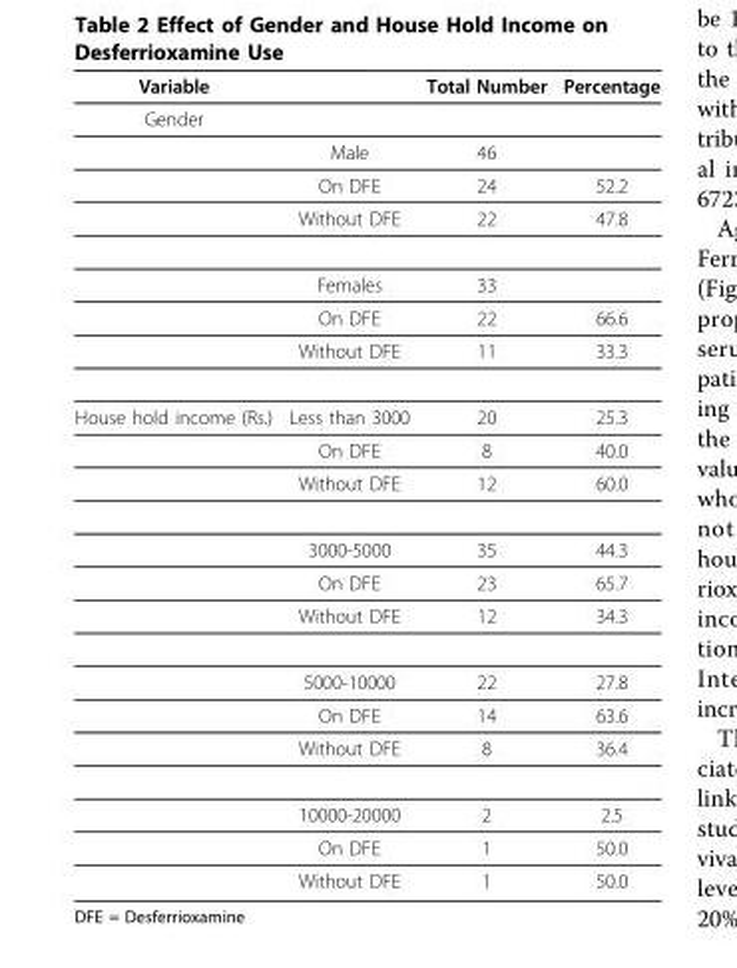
<table><thead><tr><td>Variable</td><td></td><td>Total Number</td><td>Percentage</td></tr></thead><tbody><tr><td colspan="4">Gender</td></tr><tr><td></td><td>Male</td><td>46</td><td></td></tr><tr><td></td><td>On DFE</td><td>24</td><td>52.2</td></tr><tr><td></td><td>Without DFE</td><td>22</td><td>47.8</td></tr><tr><td></td><td>Females</td><td>33</td><td></td></tr><tr><td></td><td>On DFE</td><td>22</td><td>66.6</td></tr><tr><td></td><td>Without DFE</td><td>11</td><td>33.3</td></tr><tr><td rowspan="12">House hold income (Rs.)</td><td>Less than 3000</td><td>20</td><td>25.3</td></tr><tr><td>On DFE</td><td>8</td><td>40.0</td></tr><tr><td>Without DFE</td><td>12</td><td>60.0</td></tr><tr><td>3000-5000</td><td>35</td><td>44.3</td></tr><tr><td>On DFE</td><td>23</td><td>65.7</td></tr><tr><td>Without DFE</td><td>12</td><td>34.3</td></tr><tr><td>5000-10000</td><td>22</td><td>27.8</td></tr><tr><td>On DFE</td><td>14</td><td>63.6</td></tr><tr><td>Without DFE</td><td>8</td><td>36.4</td></tr><tr><td>10000-20000</td><td>2</td><td>2.5</td></tr><tr><td>On DFE</td><td>1</td><td>50.0</td></tr><tr><td>Without DFE</td><td>1</td><td>50.0</td></tr></tbody></table>